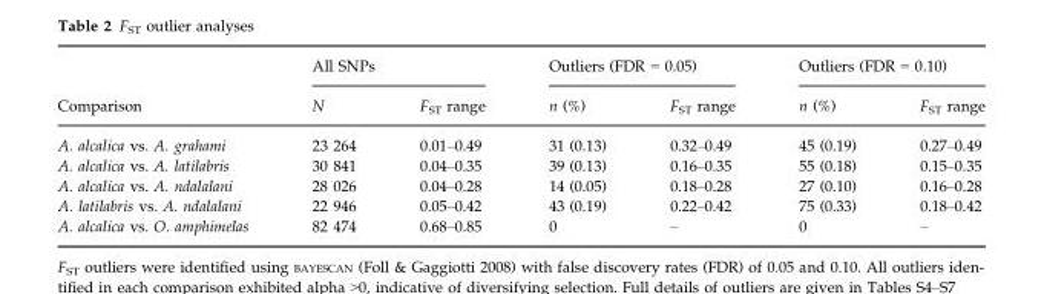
<table><thead><tr><td rowspan="2">Comparison</td><td colspan="2">All SNPs</td><td colspan="2">Outliers (FDR = 0.05)</td><td colspan="2">Outliers (FDR = 0.10)</td></tr><tr><td>N</td><td>F<sub>ST</sub> range</td><td>n (%)</td><td>F<sub>ST</sub> range</td><td>n (%)</td><td>F<sub>ST</sub> range</td></tr></thead><tbody><tr><td>A. alcalica vs. A. grahami</td><td>23 264</td><td>0.01–0.49</td><td>31 (0.13)</td><td>0.32–0.49</td><td>45 (0.19)</td><td>0.27–0.49</td></tr><tr><td>A. alcalica vs. A. latilabris</td><td>30 841</td><td>0.04–0.35</td><td>39 (0.13)</td><td>0.16–0.35</td><td>55 (0.18)</td><td>0.15–0.35</td></tr><tr><td>A. alcalica vs. A. ndalalani</td><td>28 026</td><td>0.04–0.28</td><td>14 (0.05)</td><td>0.18–0.28</td><td>27 (0.10)</td><td>0.16–0.28</td></tr><tr><td>A. latilabris vs. A. ndalalani</td><td>22 946</td><td>0.05–0.42</td><td>43 (0.19)</td><td>0.22–0.42</td><td>75 (0.33)</td><td>0.18–0.42</td></tr><tr><td>A. alcalica vs. O. amphimelas</td><td>82 474</td><td>0.68–0.85</td><td>0</td><td>–</td><td>0</td><td>–</td></tr></tbody></table>